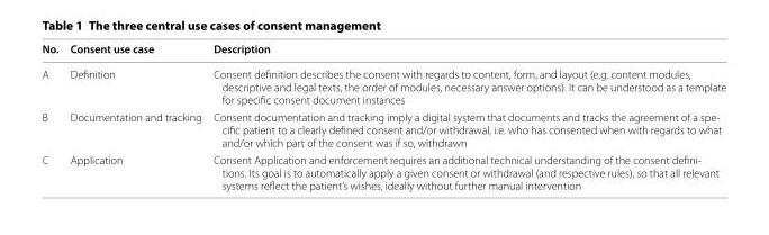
<table><thead><tr><td>No.</td><td>Consent use case</td><td>Description</td></tr></thead><tbody><tr><td>A</td><td>Definition</td><td>Consent definition describes the consent with regards to content, form, and layout (e.g. content modules, descriptive and legal texts, the order of modules, necessary answer options). It can be understood as a template for specific consent document instances</td></tr><tr><td>B</td><td>Documentation and tracking</td><td>Consent documentation and tracking imply a digital system that documents and tracks the agreement of a spe- cific patient to a clearly defined consent and/or withdrawal, i.e. who has consented when with regards to what and/or which part of the consent was if so, withdrawn</td></tr><tr><td>C</td><td>Application</td><td>Consent Application and enforcement requires an additional technical understanding of the consent defini- tions. Its goal is to automatically apply a given consent or withdrawal (and respective rules), so that all relevant systems reflect the patient’s wishes, ideally without further manual intervention</td></tr></tbody></table>